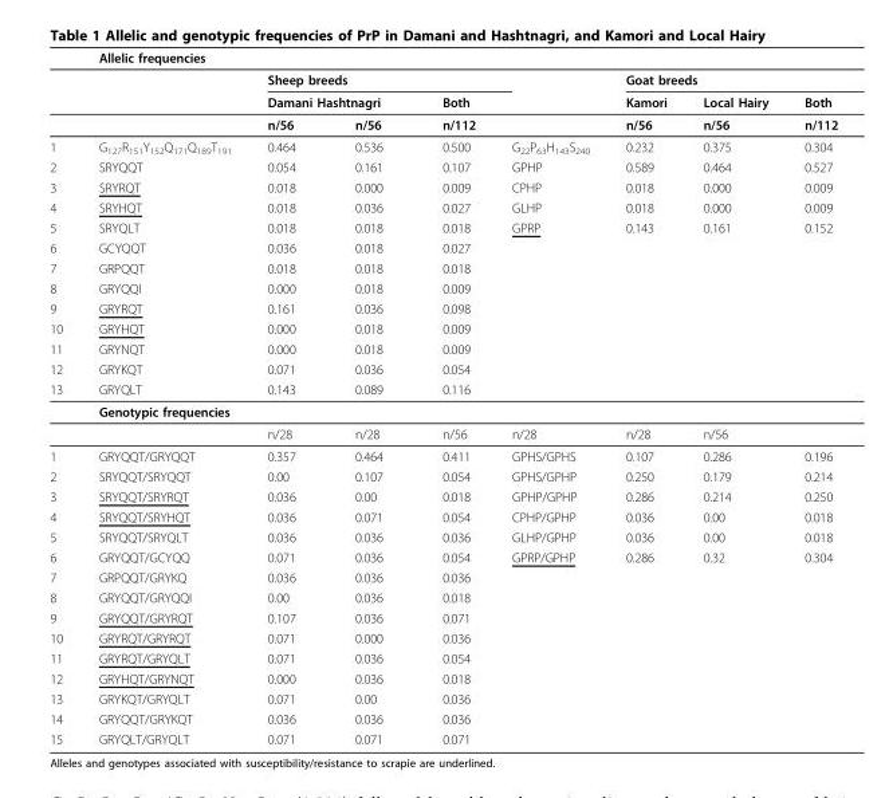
<table><thead><tr><td></td><td>Allelic frequencies</td><td></td><td></td><td></td><td></td><td></td><td></td><td></td></tr></thead><tbody><tr><td></td><td></td><td colspan="2">Sheep breeds</td><td></td><td></td><td colspan="2">Goat breeds</td><td></td></tr><tr><td></td><td></td><td colspan="2">Damani Hashtnagri</td><td>Both</td><td></td><td>Kamori</td><td>Local Hairy</td><td>Both</td></tr><tr><td></td><td></td><td>n/56</td><td>n/56</td><td>n/112</td><td></td><td>n/56</td><td>n/56</td><td>n/112</td></tr><tr><td>1</td><td>G<sub>127</sub>R<sub>151</sub>Y<sub>152</sub>Q<sub>171</sub>Q<sub>189</sub>T<sub>191</sub></td><td>0.464</td><td>0.536</td><td>0.500</td><td>G<sub>22</sub>P<sub>63</sub>H<sub>143</sub>S<sub>240</sub></td><td>0.232</td><td>0.375</td><td>0.304</td></tr><tr><td>2</td><td>SRYQQT</td><td>0.054</td><td>0.161</td><td>0.107</td><td>GPHP</td><td>0.589</td><td>0.464</td><td>0.527</td></tr><tr><td>3</td><td>SRYRQT</td><td>0.018</td><td>0.000</td><td>0.009</td><td>CPHP</td><td>0.018</td><td>0.000</td><td>0.009</td></tr><tr><td>4</td><td>SRYHQT</td><td>0.018</td><td>0.036</td><td>0.027</td><td>GLHP</td><td>0.018</td><td>0.000</td><td>0.009</td></tr><tr><td>5</td><td>SRYQLT</td><td>0.018</td><td>0.018</td><td>0.018</td><td>GPRP</td><td>0.143</td><td>0.161</td><td>0.152</td></tr><tr><td>6</td><td>GCYQQT</td><td>0.036</td><td>0.018</td><td>0.027</td><td></td><td></td><td></td><td></td></tr><tr><td>7</td><td>GRPQQT</td><td>0.018</td><td>0.018</td><td>0.018</td><td></td><td></td><td></td><td></td></tr><tr><td>8</td><td>GRYQQI</td><td>0.000</td><td>0.018</td><td>0.009</td><td></td><td></td><td></td><td></td></tr><tr><td>9</td><td>GRYRQT</td><td>0.161</td><td>0.036</td><td>0.098</td><td></td><td></td><td></td><td></td></tr><tr><td>10</td><td>GRYHQT</td><td>0.000</td><td>0.018</td><td>0.009</td><td></td><td></td><td></td><td></td></tr><tr><td>11</td><td>GRYNQT</td><td>0.000</td><td>0.018</td><td>0.009</td><td></td><td></td><td></td><td></td></tr><tr><td>12</td><td>GRYKQT</td><td>0.071</td><td>0.036</td><td>0.054</td><td></td><td></td><td></td><td></td></tr><tr><td rowspan="3">13</td><td>GRYQLT</td><td>0.143</td><td>0.089</td><td>0.116</td><td></td><td></td><td></td><td></td></tr><tr><td>Genotypic frequencies</td><td></td><td></td><td></td><td></td><td></td><td></td><td></td></tr><tr><td></td><td>n/28</td><td>n/28</td><td>n/56</td><td>n/28</td><td>n/28</td><td>n/56</td><td></td></tr><tr><td>1</td><td>GRYQQT/GRYQQT</td><td>0.357</td><td>0.464</td><td>0.411</td><td>GPHS/GPHS</td><td>0.107</td><td>0.286</td><td>0.196</td></tr><tr><td>2</td><td>SRYQQT/SRYQQT</td><td>0.00</td><td>0.107</td><td>0.054</td><td>GPHS/GPHP</td><td>0.250</td><td>0.179</td><td>0.214</td></tr><tr><td>3</td><td>SRYQQT/SRYRQT</td><td>0.036</td><td>0.00</td><td>0.018</td><td>GPHP/GPHP</td><td>0.286</td><td>0.214</td><td>0.250</td></tr><tr><td>4</td><td>SRYQQT/SRYHQT</td><td>0.036</td><td>0.071</td><td>0.054</td><td>CPHP/GPHP</td><td>0.036</td><td>0.00</td><td>0.018</td></tr><tr><td>5</td><td>SRYQQT/SRYQLT</td><td>0.036</td><td>0.036</td><td>0.036</td><td>GLHP/GPHP</td><td>0.036</td><td>0.00</td><td>0.018</td></tr><tr><td>6</td><td>GRYQQT/GCYQQ</td><td>0.071</td><td>0.036</td><td>0.054</td><td>GPRP/GPHP</td><td>0.286</td><td>0.32</td><td>0.304</td></tr><tr><td>7</td><td>GRPQQT/GRYKQ</td><td>0.036</td><td>0.036</td><td>0.036</td><td></td><td></td><td></td><td></td></tr><tr><td>8</td><td>GRYQQT/GRYQQI</td><td>0.00</td><td>0.036</td><td>0.018</td><td></td><td></td><td></td><td></td></tr><tr><td>9</td><td>GRYQQT/GRYRQT</td><td>0.107</td><td>0.036</td><td>0.071</td><td></td><td></td><td></td><td></td></tr><tr><td>10</td><td>GRYRQT/GRYRQT</td><td>0.071</td><td>0.000</td><td>0.036</td><td></td><td></td><td></td><td></td></tr><tr><td>11</td><td>GRYRQT/GRYQLT</td><td>0.071</td><td>0.036</td><td>0.054</td><td></td><td></td><td></td><td></td></tr><tr><td>12</td><td>GRYHQT/GRYNQT</td><td>0.000</td><td>0.036</td><td>0.018</td><td></td><td></td><td></td><td></td></tr><tr><td>13</td><td>GRYKQT/GRYQLT</td><td>0.071</td><td>0.00</td><td>0.036</td><td></td><td></td><td></td><td></td></tr><tr><td>14</td><td>GRYQQT/GRYKQT</td><td>0.036</td><td>0.036</td><td>0.036</td><td></td><td></td><td></td><td></td></tr><tr><td>15</td><td>GRYQLT/GRYQLT</td><td>0.071</td><td>0.071</td><td>0.071</td><td></td><td></td><td></td><td></td></tr></tbody></table>